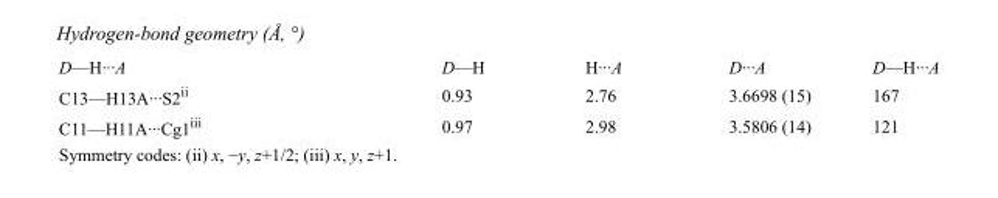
<table><tbody><tr><td>D—H···A</td><td>D—H</td><td>H···A</td><td>D···A</td><td>D—H···A</td></tr><tr><td>C13—H13A···S2<sup>ii</sup></td><td>0.93</td><td>2.76</td><td>3.6698 (15)</td><td>167</td></tr><tr><td>C11—H11A···Cg1<sup>iii</sup></td><td>0.97</td><td>2.98</td><td>3.5806 (14)</td><td>121</td></tr></tbody></table>